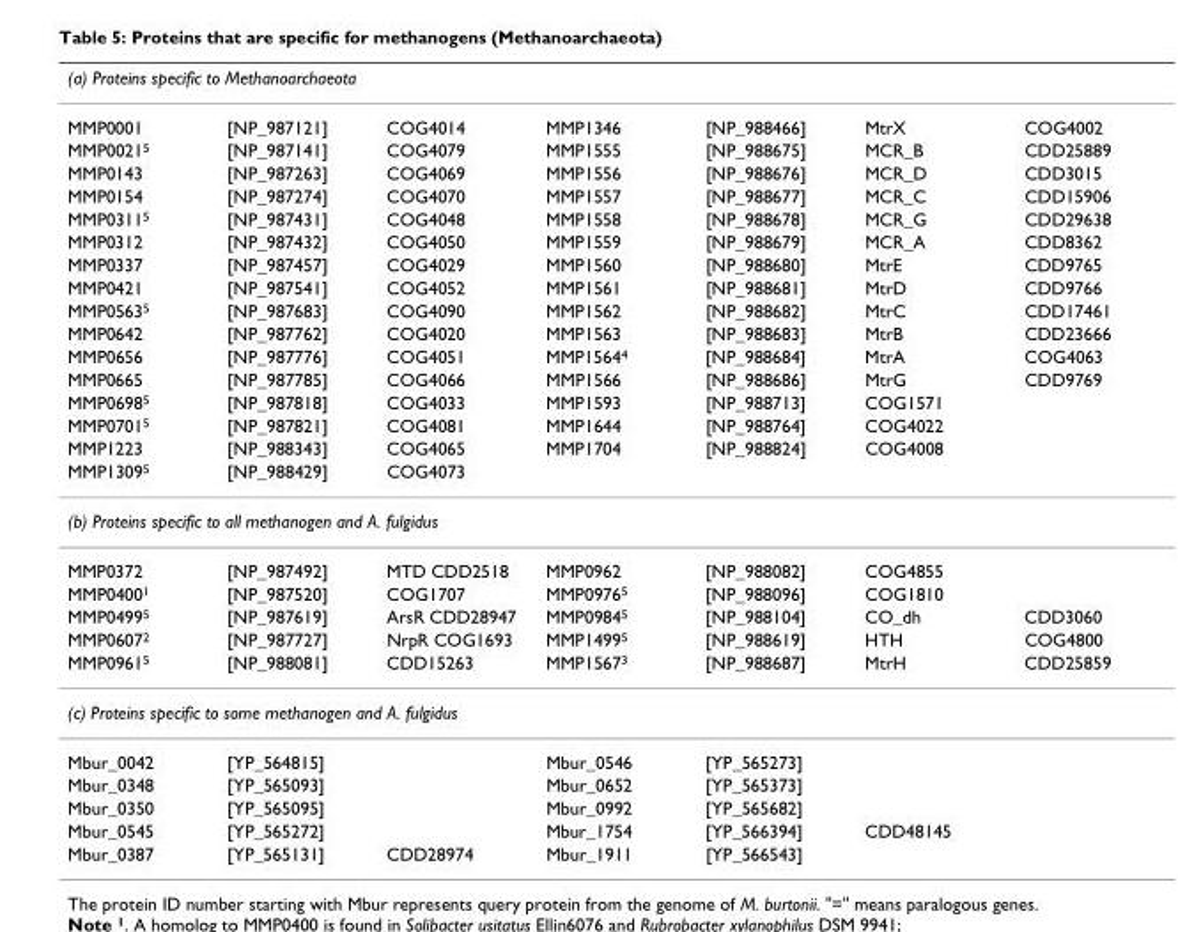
<table><thead><tr><td colspan="7">(a) Proteins specific to Methanoarchaeota</td></tr><tr><td>MMP0001</td><td>[NP_987121]</td><td>COG4014</td><td>MMP1346</td><td>[NP_988466]</td><td>MtrX</td><td>COG4002</td></tr></thead><tbody><tr><td>MMP00215</td><td>[NP_987141]</td><td>COG4079</td><td>MMP1555</td><td>[NP_988675]</td><td>MCR_B</td><td>CDD25889</td></tr><tr><td>MMP0143</td><td>[NP_987263]</td><td>COG4069</td><td>MMP1556</td><td>[NP_988676]</td><td>MCR_D</td><td>CDD3015</td></tr><tr><td>MMP0154</td><td>[NP_987274]</td><td>COG4070</td><td>MMP1557</td><td>[NP_988677]</td><td>MCR_C</td><td>CDD15906</td></tr><tr><td>MMP03115</td><td>[NP_987431]</td><td>COG4048</td><td>MMP1558</td><td>[NP_988678]</td><td>MCR_G</td><td>CDD29638</td></tr><tr><td>MMP0312</td><td>[NP_987432]</td><td>COG4050</td><td>MMP1559</td><td>[NP_988679]</td><td>MCR_A</td><td>CDD8362</td></tr><tr><td>MMP0337</td><td>[NP_987457]</td><td>COG4029</td><td>MMP1560</td><td>[NP_988680]</td><td>MtrE</td><td>CDD9765</td></tr><tr><td>MMP0421</td><td>[NP_987541]</td><td>COG4052</td><td>MMP1561</td><td>[NP_988681]</td><td>MtrD</td><td>CDD9766</td></tr><tr><td>MMP05635</td><td>[NP_987683]</td><td>COG4090</td><td>MMP1562</td><td>[NP_988682]</td><td>MtrC</td><td>CDD17461</td></tr><tr><td>MMP0642</td><td>[NP_987762]</td><td>COG4020</td><td>MMP1563</td><td>[NP_988683]</td><td>MtrB</td><td>CDD23666</td></tr><tr><td>MMP0656</td><td>[NP_987776]</td><td>COG4051</td><td>MMP15644</td><td>[NP_988684]</td><td>MtrA</td><td>COG4063</td></tr><tr><td>MMP0665</td><td>[NP_987785]</td><td>COG4066</td><td>MMP1566</td><td>[NP_988686]</td><td>MtrG</td><td>CDD9769</td></tr><tr><td>MMP06985</td><td>[NP_987818]</td><td>COG4033</td><td>MMP1593</td><td>[NP_988713]</td><td>COG1571</td><td></td></tr><tr><td>MMP07015</td><td>[NP_987821]</td><td>COG4081</td><td>MMP1644</td><td>[NP_988764]</td><td>COG4022</td><td></td></tr><tr><td>MMP1223</td><td>[NP_988343]</td><td>COG4065</td><td>MMP1704</td><td>[NP_988824]</td><td>COG4008</td><td></td></tr><tr><td>MMP13095</td><td>[NP_988429]</td><td>COG4073</td><td></td><td></td><td></td><td></td></tr><tr><td colspan="7">(b) Proteins specific to all methanogen and A. fulgidus</td></tr><tr><td>MMP0372</td><td>[NP_987492]</td><td>MTD CDD2518</td><td>MMP0962</td><td>[NP_988082]</td><td>COG4855</td><td></td></tr><tr><td>MMP04001</td><td>[NP_987520]</td><td>COG1707</td><td>MMP09765</td><td>[NP_988096]</td><td>COG1810</td><td></td></tr><tr><td>MMP04995</td><td>[NP_987619]</td><td>ArsR CDD28947</td><td>MMP09845</td><td>[NP_988104]</td><td>CO_dh</td><td>CDD3060</td></tr><tr><td>MMP06072</td><td>[NP_987727]</td><td>NrpR COG1693</td><td>MMP14995</td><td>[NP_988619]</td><td>HTH</td><td>COG4800</td></tr><tr><td>MMP09615</td><td>[NP_988081]</td><td>CDD15263</td><td>MMP15673</td><td>[NP_988687]</td><td>MtrH</td><td>CDD25859</td></tr><tr><td colspan="7">(c) Proteins specific to some methanogen and A. fulgidus</td></tr><tr><td>Mbur_0042</td><td>[YP_564815]</td><td></td><td>Mbur_0546</td><td>[YP_565273]</td><td></td><td></td></tr><tr><td>Mbur_0348</td><td>[YP_565093]</td><td></td><td>Mbur_0652</td><td>[YP_565373]</td><td></td><td></td></tr><tr><td>Mbur_0350</td><td>[YP_565095]</td><td></td><td>Mbur_0992</td><td>[YP_565682]</td><td></td><td></td></tr><tr><td>Mbur_0545</td><td>[YP_565272]</td><td></td><td>Mbur_1754</td><td>[YP_566394]</td><td>CDD48145</td><td></td></tr><tr><td>Mbur_0387</td><td>[YP_565131]</td><td>CDD28974</td><td>Mbur_1911</td><td>[YP_566543]</td><td></td><td></td></tr></tbody></table>